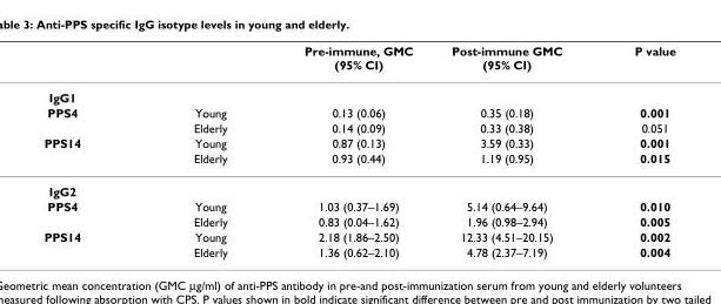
<table><thead><tr><td></td><td></td><td>Pre-immune, GMC (95% CI)</td><td>Post-immune GMC (95% CI)</td><td>P value</td></tr></thead><tbody><tr><td colspan="5">IgG1</td></tr><tr><td rowspan="2">PPS4</td><td>Young</td><td>0.13 (0.06)</td><td>0.35 (0.18)</td><td>0.001</td></tr><tr><td>Elderly</td><td>0.14 (0.09)</td><td>0.33 (0.38)</td><td>0.051</td></tr><tr><td rowspan="2">PPS14</td><td>Young</td><td>0.87 (0.13)</td><td>3.59 (0.33)</td><td>0.001</td></tr><tr><td>Elderly</td><td>0.93 (0.44)</td><td>1.19 (0.95)</td><td>0.015</td></tr><tr><td colspan="5">IgG2</td></tr><tr><td rowspan="2">PPS4</td><td>Young</td><td>1.03 (0.37–1.69)</td><td>5.14 (0.64–9.64)</td><td>0.010</td></tr><tr><td>Elderly</td><td>0.83 (0.04–1.62)</td><td>1.96 (0.98–2.94)</td><td>0.005</td></tr><tr><td rowspan="2">PPS14</td><td>Young</td><td>2.18 (1.86–2.50)</td><td>12.33 (4.51–20.15)</td><td>0.002</td></tr><tr><td>Elderly</td><td>1.36 (0.62–2.10)</td><td>4.78 (2.37–7.19)</td><td>0.004</td></tr></tbody></table>